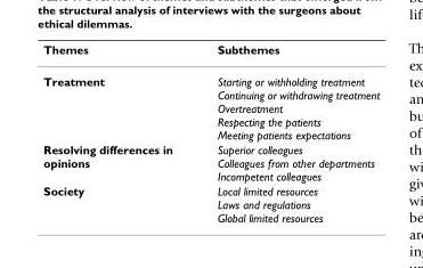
<table><thead><tr><td>Themes</td><td>Subthemes</td></tr></thead><tbody><tr><td>Treatment</td><td>Starting or withholding treatment Continuing or withdrawing treatment Overtreatment Respecting the patients Meeting patients expectations</td></tr><tr><td>Resolving differences in opinions</td><td>Superior colleagues Colleagues from other departments Incompetent colleagues</td></tr><tr><td>Society</td><td>Local limited resources Laws and regulations Global limited resources</td></tr></tbody></table>